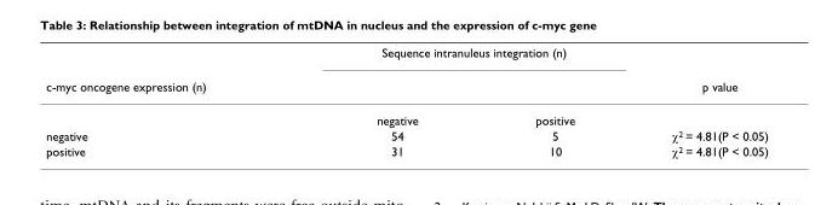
<table><thead><tr><td rowspan="2">c-myc oncogene expression (n)</td><td colspan="2">Sequence intranuleus integration (n)</td><td rowspan="2">p value</td></tr><tr><td></td><td></td></tr></thead><tbody><tr><td></td><td>negative</td><td>positive</td><td></td></tr><tr><td>negative</td><td>54</td><td>5</td><td>χ<sup>2</sup> = 4.81(P &lt; 0.05)</td></tr><tr><td>positive</td><td>31</td><td>10</td><td>χ<sup>2</sup> = 4.81(P &lt; 0.05)</td></tr></tbody></table>